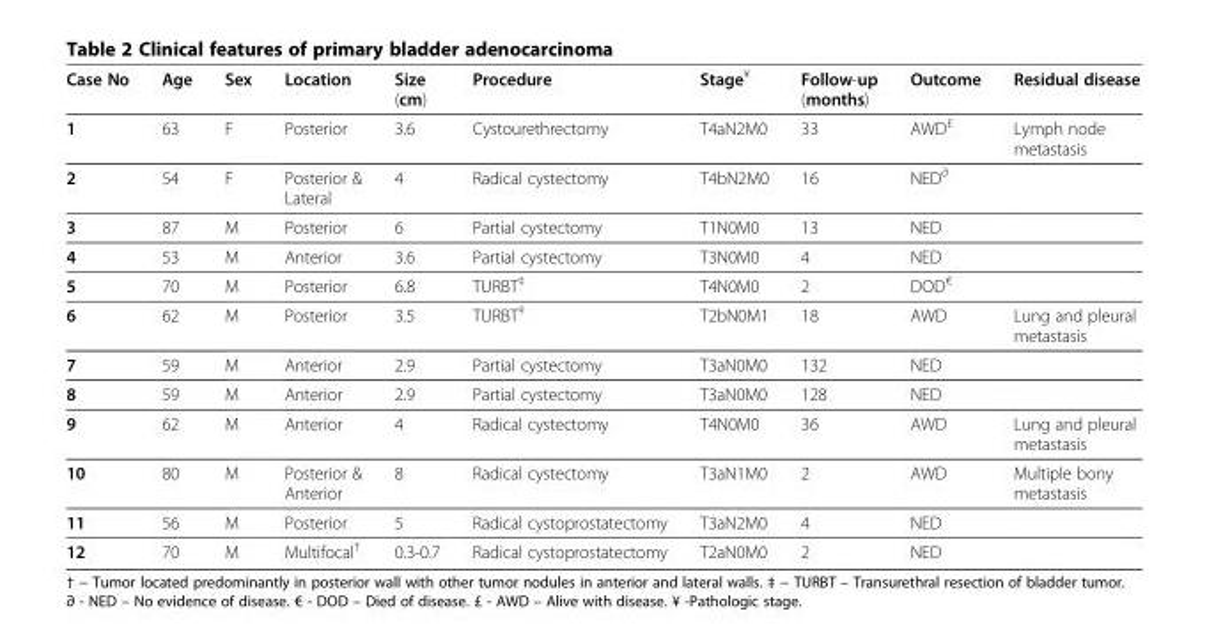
<table><thead><tr><td>Case No</td><td>Age</td><td>Sex</td><td>Location</td><td>Size (cm)</td><td>Procedure</td><td>Stage<sup>¥</sup></td><td>Follow-up (months)</td><td>Outcome</td><td>Residual disease</td></tr></thead><tbody><tr><td>1</td><td>63</td><td>F</td><td>Posterior</td><td>3.6</td><td>Cystourethrectomy</td><td>T4aN2M0</td><td>33</td><td>AWD<sup>£</sup></td><td>Lymph node metastasis</td></tr><tr><td>2</td><td>54</td><td>F</td><td>Posterior &amp; Lateral</td><td>4</td><td>Radical cystectomy</td><td>T4bN2M0</td><td>16</td><td>NED<sup>∂</sup></td><td></td></tr><tr><td>3</td><td>87</td><td>M</td><td>Posterior</td><td>6</td><td>Partial cystectomy</td><td>T1N0M0</td><td>13</td><td>NED</td><td></td></tr><tr><td>4</td><td>53</td><td>M</td><td>Anterior</td><td>3.6</td><td>Partial cystectomy</td><td>T3N0M0</td><td>4</td><td>NED</td><td></td></tr><tr><td>5</td><td>70</td><td>M</td><td>Posterior</td><td>6.8</td><td>TURBT<sup>‡</sup></td><td>T4N0M0</td><td>2</td><td>DOD<sup>€</sup></td><td></td></tr><tr><td>6</td><td>62</td><td>M</td><td>Posterior</td><td>3.5</td><td>TURBT<sup>‡</sup></td><td>T2bN0M1</td><td>18</td><td>AWD</td><td>Lung and pleural metastasis</td></tr><tr><td>7</td><td>59</td><td>M</td><td>Anterior</td><td>2.9</td><td>Partial cystectomy</td><td>T3aN0M0</td><td>132</td><td>NED</td><td></td></tr><tr><td>8</td><td>59</td><td>M</td><td>Anterior</td><td>2.9</td><td>Partial cystectomy</td><td>T3aN0M0</td><td>128</td><td>NED</td><td></td></tr><tr><td>9</td><td>62</td><td>M</td><td>Anterior</td><td>4</td><td>Radical cystectomy</td><td>T4N0M0</td><td>36</td><td>AWD</td><td>Lung and pleural metastasis</td></tr><tr><td>10</td><td>80</td><td>M</td><td>Posterior &amp; Anterior</td><td>8</td><td>Radical cystectomy</td><td>T3aN1M0</td><td>2</td><td>AWD</td><td>Multiple bony metastasis</td></tr><tr><td>11</td><td>56</td><td>M</td><td>Posterior</td><td>5</td><td>Radical cystoprostatectomy</td><td>T3aN2M0</td><td>4</td><td>NED</td><td></td></tr><tr><td>12</td><td>70</td><td>M</td><td>Multifocal<sup>†</sup></td><td>0.3-0.7</td><td>Radical cystoprostatectomy</td><td>T2aN0M0</td><td>2</td><td>NED</td><td></td></tr></tbody></table>